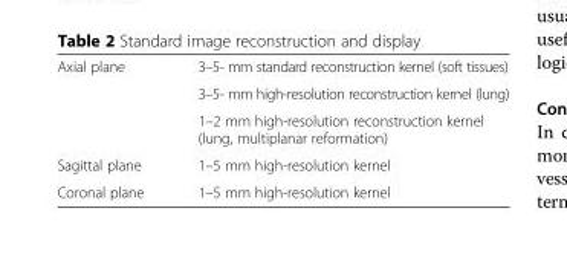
<table><tbody><tr><td rowspan="3">Axial plane</td><td>3–5- mm standard reconstruction kernel (soft tissues)</td></tr><tr><td>3–5- mm high-resolution reconstruction kernel (lung)</td></tr><tr><td>1–2 mm high-resolution reconstruction kernel (lung, multiplanar reformation)</td></tr><tr><td>Sagittal plane</td><td>1–5 mm high-resolution kernel</td></tr><tr><td>Coronal plane</td><td>1–5 mm high-resolution kernel</td></tr></tbody></table>